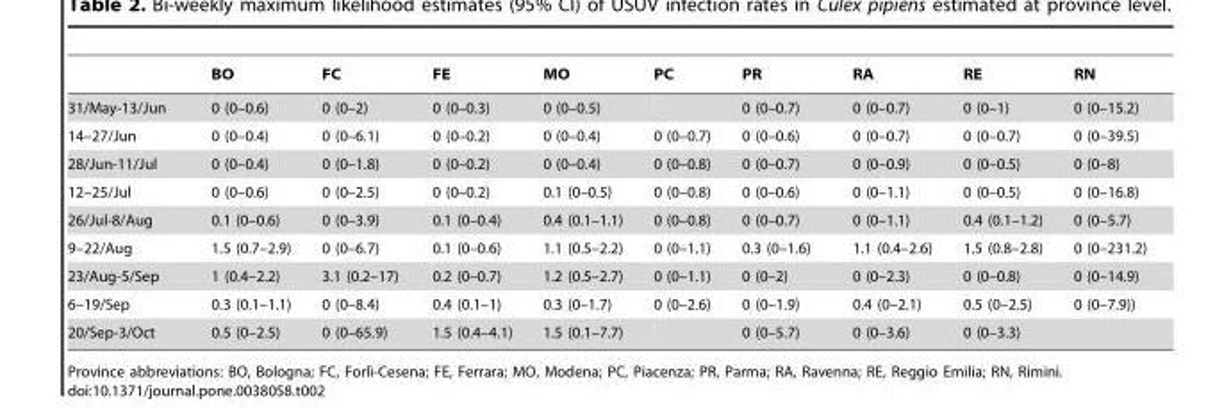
<table><thead><tr><td></td><td>BO</td><td>FC</td><td>FE</td><td>MO</td><td>PC</td><td>PR</td><td>RA</td><td>RE</td><td>RN</td></tr></thead><tbody><tr><td>31/May-13/Jun</td><td>0 (0–0.6)</td><td>0 (0–2)</td><td>0 (0–0.3)</td><td>0 (0–0.5)</td><td></td><td>0 (0–0.7)</td><td>0 (0–0.7)</td><td>0 (0–1)</td><td>0 (0–15.2)</td></tr><tr><td>14–27/Jun</td><td>0 (0–0.4)</td><td>0 (0–6.1)</td><td>0 (0–0.2)</td><td>0 (0–0.4)</td><td>0 (0–0.7)</td><td>0 (0–0.6)</td><td>0 (0–0.7)</td><td>0 (0–0.7)</td><td>0 (0–39.5)</td></tr><tr><td>28/Jun-11/Jul</td><td>0 (0–0.4)</td><td>0 (0–1.8)</td><td>0 (0–0.2)</td><td>0 (0–0.4)</td><td>0 (0–0.8)</td><td>0 (0–0.7)</td><td>0 (0–0.9)</td><td>0 (0–0.5)</td><td>0 (0–8)</td></tr><tr><td>12–25/Jul</td><td>0 (0–0.6)</td><td>0 (0–2.5)</td><td>0 (0–0.2)</td><td>0.1 (0–0.5)</td><td>0 (0–0.8)</td><td>0 (0–0.6)</td><td>0 (0–1.1)</td><td>0 (0–0.5)</td><td>0 (0–16.8)</td></tr><tr><td>26/Jul-8/Aug</td><td>0.1 (0–0.6)</td><td>0 (0–3.9)</td><td>0.1 (0–0.4)</td><td>0.4 (0.1–1.1)</td><td>0 (0–0.8)</td><td>0 (0–0.7)</td><td>0 (0–1.1)</td><td>0.4 (0.1–1.2)</td><td>0 (0–5.7)</td></tr><tr><td>9–22/Aug</td><td>1.5 (0.7–2.9)</td><td>0 (0–6.7)</td><td>0.1 (0–0.6)</td><td>1.1 (0.5–2.2)</td><td>0 (0–1.1)</td><td>0.3 (0–1.6)</td><td>1.1 (0.4–2.6)</td><td>1.5 (0.8–2.8)</td><td>0 (0–231.2)</td></tr><tr><td>23/Aug-5/Sep</td><td>1 (0.4–2.2)</td><td>3.1 (0.2–17)</td><td>0.2 (0–0.7)</td><td>1.2 (0.5–2.7)</td><td>0 (0–1.1)</td><td>0 (0–2)</td><td>0 (0–2.3)</td><td>0 (0–0.8)</td><td>0 (0–14.9)</td></tr><tr><td>6–19/Sep</td><td>0.3 (0.1–1.1)</td><td>0 (0–8.4)</td><td>0.4 (0.1–1)</td><td>0.3 (0–1.7)</td><td>0 (0–2.6)</td><td>0 (0–1.9)</td><td>0.4 (0–2.1)</td><td>0.5 (0–2.5)</td><td>0 (0–7.9))</td></tr><tr><td>20/Sep-3/Oct</td><td>0.5 (0–2.5)</td><td>0 (0–65.9)</td><td>1.5 (0.4–4.1)</td><td>1.5 (0.1–7.7)</td><td></td><td>0 (0–5.7)</td><td>0 (0–3.6)</td><td>0 (0–3.3)</td><td></td></tr></tbody></table>